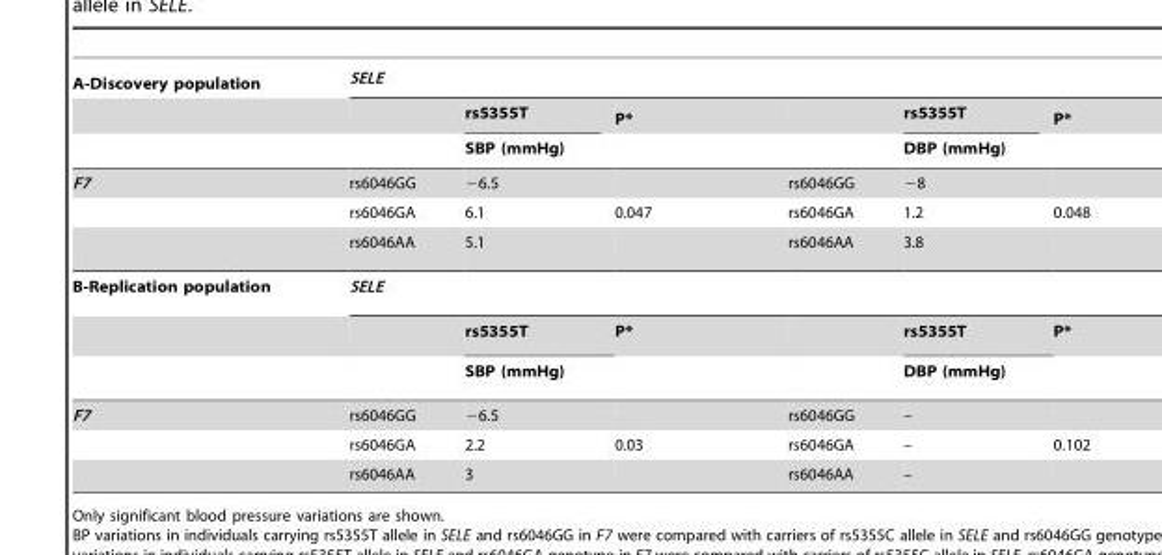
<table><thead><tr><td rowspan="3">A-Discovery population</td><td colspan="6">SELE</td></tr><tr><td rowspan="2"></td><td rowspan="2">rs5355T SBP (mmHg)</td><td rowspan="2">P*</td><td rowspan="2"></td><td rowspan="2">rs5355T DBP (mmHg)</td><td rowspan="2">P*</td></tr><tr></tr></thead><tbody><tr><td rowspan="3">F7</td><td>rs6046GG</td><td>−6.5</td><td></td><td>rs6046GG</td><td>−8</td><td></td></tr><tr><td>rs6046GA</td><td>6.1</td><td>0.047</td><td>rs6046GA</td><td>1.2</td><td>0.048</td></tr><tr><td>rs6046AA</td><td>5.1</td><td></td><td>rs6046AA</td><td>3.8</td><td></td></tr><tr><td rowspan="3">B-Replication population</td><td colspan="6">SELE</td></tr><tr><td></td><td>rs5355T</td><td>P*</td><td></td><td>rs5355T</td><td>P*</td></tr><tr><td></td><td>SBP (mmHg)</td><td></td><td></td><td>DBP (mmHg)</td><td></td></tr><tr><td rowspan="3">F7</td><td>rs6046GG</td><td>−6.5</td><td></td><td>rs6046GG</td><td>–</td><td></td></tr><tr><td>rs6046GA</td><td>2.2</td><td>0.03</td><td>rs6046GA</td><td>–</td><td>0.102</td></tr><tr><td>rs6046AA</td><td>3</td><td></td><td>rs6046AA</td><td>–</td><td></td></tr></tbody></table>